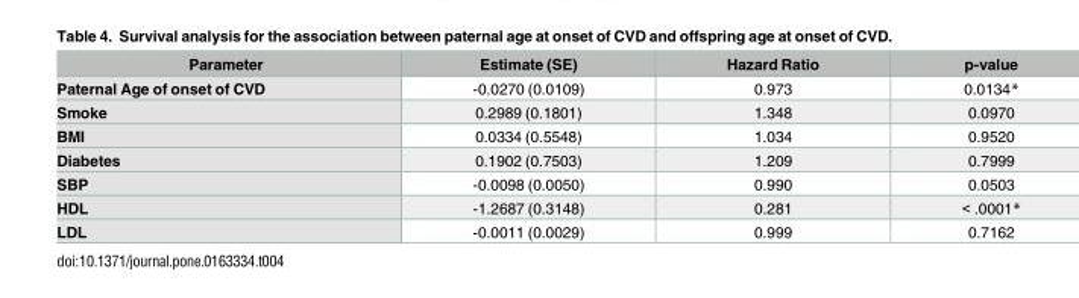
<table><thead><tr><td>Parameter</td><td>Estimate (SE)</td><td>Hazard Ratio</td><td>p-value</td></tr></thead><tbody><tr><td>Paternal Age of onset of CVD</td><td>-0.0270 (0.0109)</td><td>0.973</td><td>0.0134*</td></tr><tr><td>Smoke</td><td>0.2989 (0.1801)</td><td>1.348</td><td>0.0970</td></tr><tr><td>BMI</td><td>0.0334 (0.5548)</td><td>1.034</td><td>0.9520</td></tr><tr><td>Diabetes</td><td>0.1902 (0.7503)</td><td>1.209</td><td>0.7999</td></tr><tr><td>SBP</td><td>-0.0098 (0.0050)</td><td>0.990</td><td>0.0503</td></tr><tr><td>HDL</td><td>-1.2687 (0.3148)</td><td>0.281</td><td>&lt; .0001*</td></tr><tr><td>LDL</td><td>-0.0011 (0.0029)</td><td>0.999</td><td>0.7162</td></tr></tbody></table>